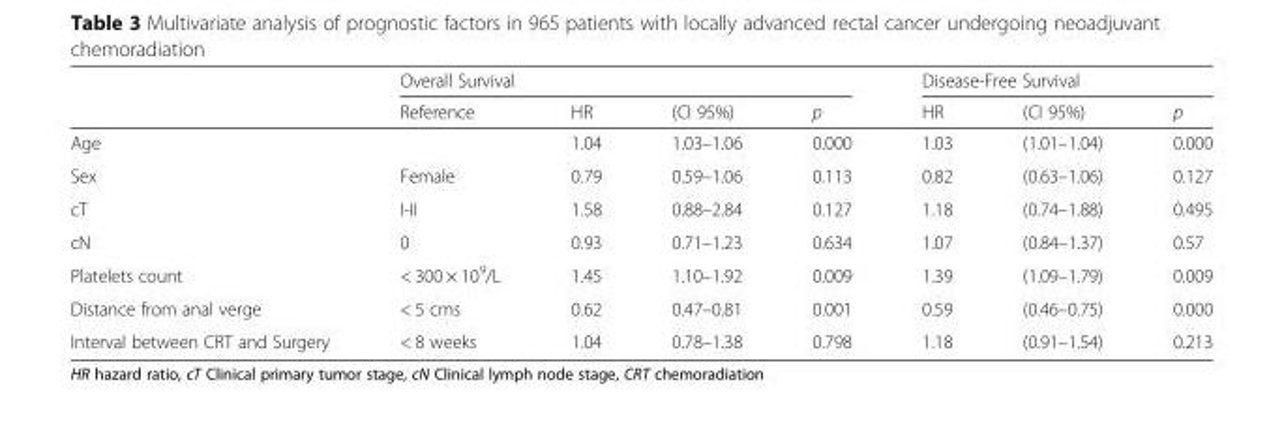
<table><thead><tr><td rowspan="2"></td><td colspan="4">Overall Survival</td><td colspan="3">Disease-Free Survival</td></tr><tr><td>Reference</td><td>HR</td><td>(CI 95%)</td><td>p</td><td>HR</td><td>(CI 95%)</td><td>p</td></tr></thead><tbody><tr><td>Age</td><td></td><td>1.04</td><td>1.03–1.06</td><td>0.000</td><td>1.03</td><td>(1.01–1.04)</td><td>0.000</td></tr><tr><td>Sex</td><td>Female</td><td>0.79</td><td>0.59–1.06</td><td>0.113</td><td>0.82</td><td>(0.63–1.06)</td><td>0.127</td></tr><tr><td>cT</td><td>I-II</td><td>1.58</td><td>0.88–2.84</td><td>0.127</td><td>1.18</td><td>(0.74–1.88)</td><td>0.495</td></tr><tr><td>cN</td><td>0</td><td>0.93</td><td>0.71–1.23</td><td>0.634</td><td>1.07</td><td>(0.84–1.37)</td><td>0.57</td></tr><tr><td>Platelets count</td><td>&lt; 300 × 10<sup>9</sup>/L</td><td>1.45</td><td>1.10–1.92</td><td>0.009</td><td>1.39</td><td>(1.09–1.79)</td><td>0.009</td></tr><tr><td>Distance from anal verge</td><td>&lt; 5 cms</td><td>0.62</td><td>0.47–0.81</td><td>0.001</td><td>0.59</td><td>(0.46–0.75)</td><td>0.000</td></tr><tr><td>Interval between CRT and Surgery</td><td>&lt; 8 weeks</td><td>1.04</td><td>0.78–1.38</td><td>0.798</td><td>1.18</td><td>(0.91–1.54)</td><td>0.213</td></tr></tbody></table>